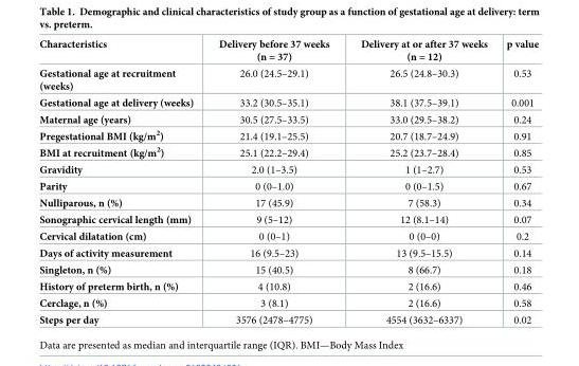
<table><thead><tr><td>Characteristics</td><td>Delivery before 37 weeks (n = 37)</td><td>Delivery at or after 37 weeks (n = 12)</td><td>p value</td></tr></thead><tbody><tr><td>Gestational age at recruitment (weeks)</td><td>26.0 (24.5–29.1)</td><td>26.5 (24.8–30.3)</td><td>0.53</td></tr><tr><td>Gestational age at delivery (weeks)</td><td>33.2 (30.5–35.1)</td><td>38.1 (37.5–39.1)</td><td>0.001</td></tr><tr><td>Maternal age (years)</td><td>30.5 (27.5–33.5)</td><td>33.0 (29.5–38.2)</td><td>0.24</td></tr><tr><td>Pregestational BMI (kg/m<sup>2</sup>)</td><td>21.4 (19.1–25.5)</td><td>20.7 (18.7–24.9)</td><td>0.91</td></tr><tr><td>BMI at recruitment (kg/m<sup>2</sup>)</td><td>25.1 (22.2–29.4)</td><td>25.2 (23.7–28.4)</td><td>0.85</td></tr><tr><td>Gravidity</td><td>2.0 (1–3.5)</td><td>1 (1–2.7)</td><td>0.53</td></tr><tr><td>Parity</td><td>0 (0–1.0)</td><td>0 (0–1.5)</td><td>0.67</td></tr><tr><td>Nulliparous, n (%)</td><td>17 (45.9)</td><td>7 (58.3)</td><td>0.34</td></tr><tr><td>Sonographic cervical length (mm)</td><td>9 (5–12)</td><td>12 (8.1–14)</td><td>0.07</td></tr><tr><td>Cervical dilatation (cm)</td><td>0 (0–1)</td><td>0 (0–0)</td><td>0.2</td></tr><tr><td>Days of activity measurement</td><td>16 (9.5–23)</td><td>13 (9.5–15.5)</td><td>0.14</td></tr><tr><td>Singleton, n (%)</td><td>15 (40.5)</td><td>8 (66.7)</td><td>0.18</td></tr><tr><td>History of preterm birth, n (%)</td><td>4 (10.8)</td><td>2 (16.6)</td><td>0.46</td></tr><tr><td>Cerclage, n (%)</td><td>3 (8.1)</td><td>2 (16.6)</td><td>0.58</td></tr><tr><td>Steps per day</td><td>3576 (2478–4775)</td><td>4554 (3632–6337)</td><td>0.02</td></tr></tbody></table>